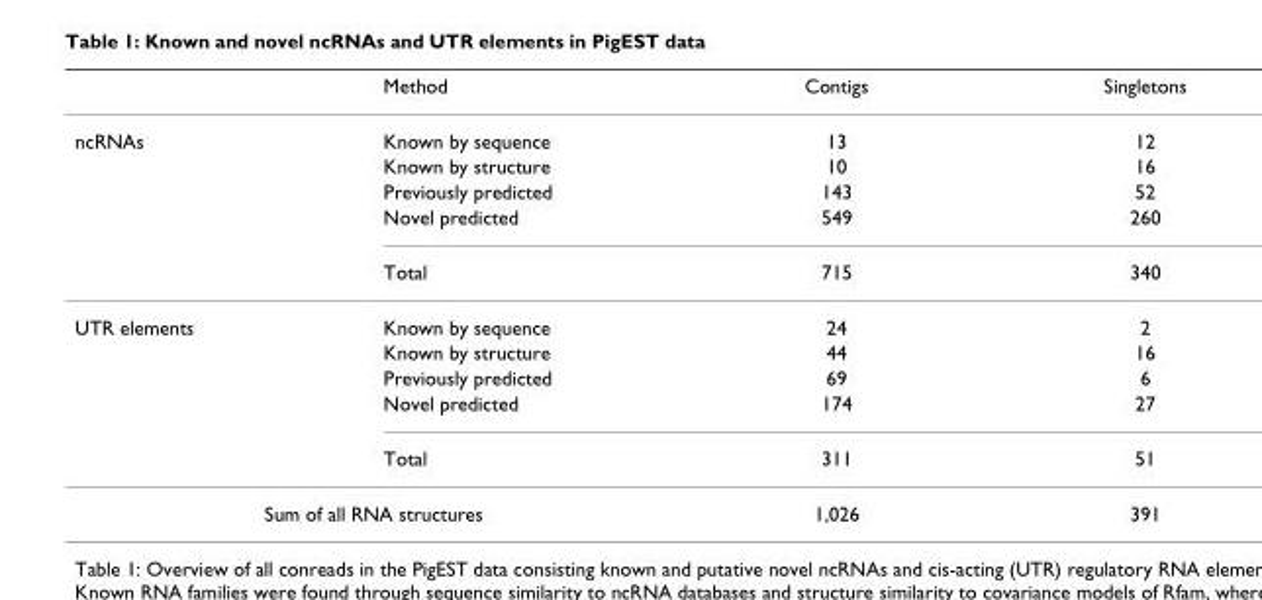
<table><thead><tr><td></td><td>Method</td><td>Contigs</td><td>Singletons</td></tr></thead><tbody><tr><td rowspan="5">ncRNAs</td><td>Known by sequence</td><td>13</td><td>12</td></tr><tr><td>Known by structure</td><td>10</td><td>16</td></tr><tr><td>Previously predicted</td><td>143</td><td>52</td></tr><tr><td>Novel predicted</td><td>549</td><td>260</td></tr><tr><td>Total</td><td>715</td><td>340</td></tr><tr><td rowspan="5">UTR elements</td><td>Known by sequence</td><td>24</td><td>2</td></tr><tr><td>Known by structure</td><td>44</td><td>16</td></tr><tr><td>Previously predicted</td><td>69</td><td>6</td></tr><tr><td>Novel predicted</td><td>174</td><td>27</td></tr><tr><td>Total</td><td>311</td><td>51</td></tr><tr><td colspan="2">Sum of all RNA structures</td><td>1,026</td><td>391</td></tr></tbody></table>